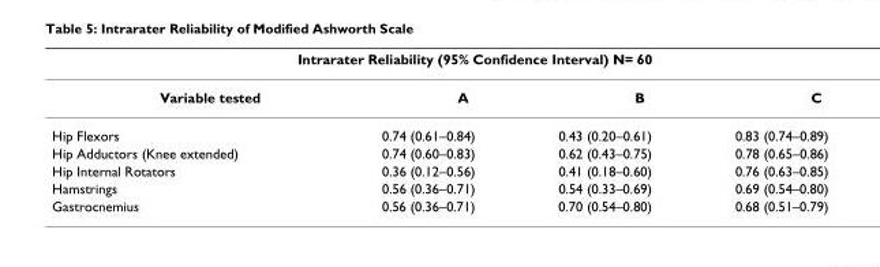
<table><thead><tr><td colspan="4">Intrarater Reliability (95% Confidence Interval) N= 60</td></tr><tr><td>Variable tested</td><td>A</td><td>B</td><td>C</td></tr></thead><tbody><tr><td>Hip Flexors</td><td>0.74 (0.61–0.84)</td><td>0.43 (0.20–0.61)</td><td>0.83 (0.74–0.89)</td></tr><tr><td>Hip Adductors (Knee extended)</td><td>0.74 (0.60–0.83)</td><td>0.62 (0.43–0.75)</td><td>0.78 (0.65–0.86)</td></tr><tr><td>Hip Internal Rotators</td><td>0.36 (0.12–0.56)</td><td>0.41 (0.18–0.60)</td><td>0.76 (0.63–0.85)</td></tr><tr><td>Hamstrings</td><td>0.56 (0.36–0.71)</td><td>0.54 (0.33–0.69)</td><td>0.69 (0.54–0.80)</td></tr><tr><td>Gastrocnemius</td><td>0.56 (0.36–0.71)</td><td>0.70 (0.54–0.80)</td><td>0.68 (0.51–0.79)</td></tr></tbody></table>